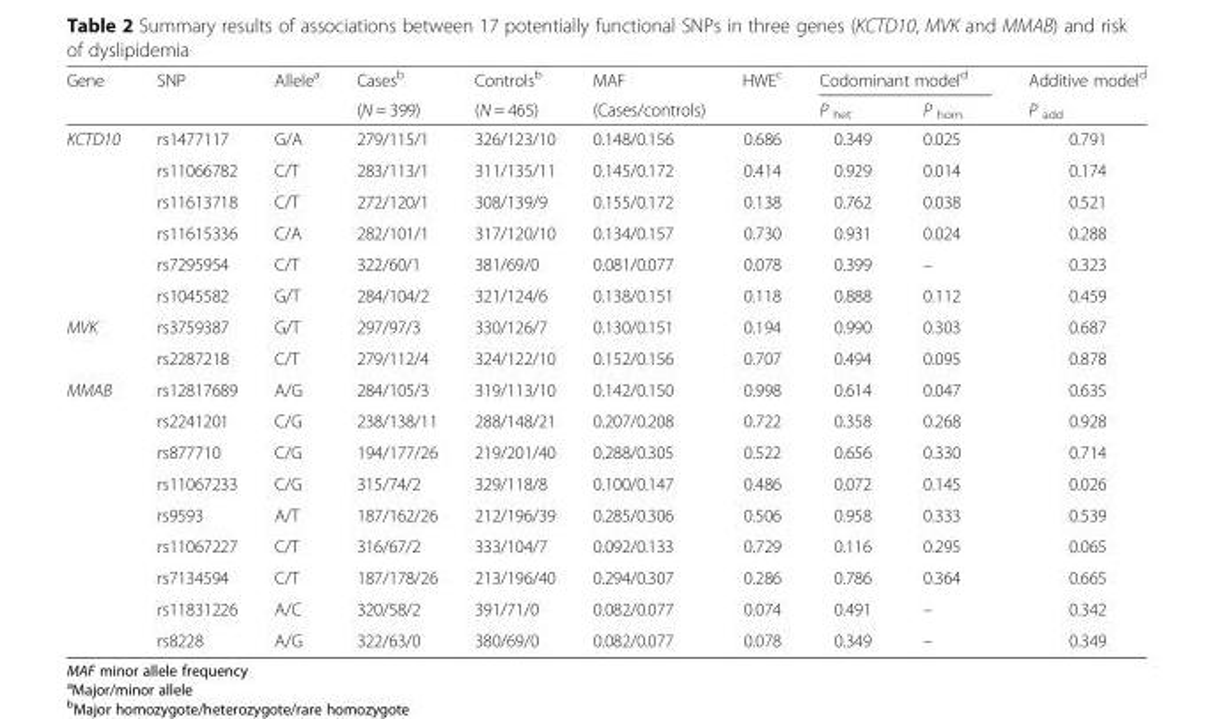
<table><thead><tr><td rowspan="2">Gene</td><td rowspan="2">SNP</td><td rowspan="2">Allele<sup>a</sup></td><td rowspan="2">Cases<sup>b</sup> (N = 399)</td><td rowspan="2">Controls<sup>b</sup> (N = 465)</td><td rowspan="2">MAF (Cases/controls)</td><td rowspan="2">HWE<sup>c</sup></td><td colspan="2">Codominant model<sup>d</sup></td><td rowspan="2">Additive model<sup>d</sup> P <sub>add</sub></td></tr><tr><td>P <sub>het</sub></td><td>P <sub>hom</sub></td></tr></thead><tbody><tr><td rowspan="6">KCTD10</td><td>rs1477117</td><td>G/A</td><td>279/115/1</td><td>326/123/10</td><td>0.148/0.156</td><td>0.686</td><td>0.349</td><td>0.025</td><td>0.791</td></tr><tr><td>rs11066782</td><td>C/T</td><td>283/113/1</td><td>311/135/11</td><td>0.145/0.172</td><td>0.414</td><td>0.929</td><td>0.014</td><td>0.174</td></tr><tr><td>rs11613718</td><td>C/T</td><td>272/120/1</td><td>308/139/9</td><td>0.155/0.172</td><td>0.138</td><td>0.762</td><td>0.038</td><td>0.521</td></tr><tr><td>rs11615336</td><td>C/A</td><td>282/101/1</td><td>317/120/10</td><td>0.134/0.157</td><td>0.730</td><td>0.931</td><td>0.024</td><td>0.288</td></tr><tr><td>rs7295954</td><td>C/T</td><td>322/60/1</td><td>381/69/0</td><td>0.081/0.077</td><td>0.078</td><td>0.399</td><td>–</td><td>0.323</td></tr><tr><td>rs1045582</td><td>G/T</td><td>284/104/2</td><td>321/124/6</td><td>0.138/0.151</td><td>0.118</td><td>0.888</td><td>0.112</td><td>0.459</td></tr><tr><td rowspan="2">MVK</td><td>rs3759387</td><td>G/T</td><td>297/97/3</td><td>330/126/7</td><td>0.130/0.151</td><td>0.194</td><td>0.990</td><td>0.303</td><td>0.687</td></tr><tr><td>rs2287218</td><td>C/T</td><td>279/112/4</td><td>324/122/10</td><td>0.152/0.156</td><td>0.707</td><td>0.494</td><td>0.095</td><td>0.878</td></tr><tr><td rowspan="9">MMAB</td><td>rs12817689</td><td>A/G</td><td>284/105/3</td><td>319/113/10</td><td>0.142/0.150</td><td>0.998</td><td>0.614</td><td>0.047</td><td>0.635</td></tr><tr><td>rs2241201</td><td>C/G</td><td>238/138/11</td><td>288/148/21</td><td>0.207/0.208</td><td>0.722</td><td>0.358</td><td>0.268</td><td>0.928</td></tr><tr><td>rs877710</td><td>C/G</td><td>194/177/26</td><td>219/201/40</td><td>0.288/0.305</td><td>0.522</td><td>0.656</td><td>0.330</td><td>0.714</td></tr><tr><td>rs11067233</td><td>C/G</td><td>315/74/2</td><td>329/118/8</td><td>0.100/0.147</td><td>0.486</td><td>0.072</td><td>0.145</td><td>0.026</td></tr><tr><td>rs9593</td><td>A/T</td><td>187/162/26</td><td>212/196/39</td><td>0.285/0.306</td><td>0.506</td><td>0.958</td><td>0.333</td><td>0.539</td></tr><tr><td>rs11067227</td><td>C/T</td><td>316/67/2</td><td>333/104/7</td><td>0.092/0.133</td><td>0.729</td><td>0.116</td><td>0.295</td><td>0.065</td></tr><tr><td>rs7134594</td><td>C/T</td><td>187/178/26</td><td>213/196/40</td><td>0.294/0.307</td><td>0.286</td><td>0.786</td><td>0.364</td><td>0.665</td></tr><tr><td>rs11831226</td><td>A/C</td><td>320/58/2</td><td>391/71/0</td><td>0.082/0.077</td><td>0.074</td><td>0.491</td><td>–</td><td>0.342</td></tr><tr><td>rs8228</td><td>A/G</td><td>322/63/0</td><td>380/69/0</td><td>0.082/0.077</td><td>0.078</td><td>0.349</td><td>–</td><td>0.349</td></tr></tbody></table>